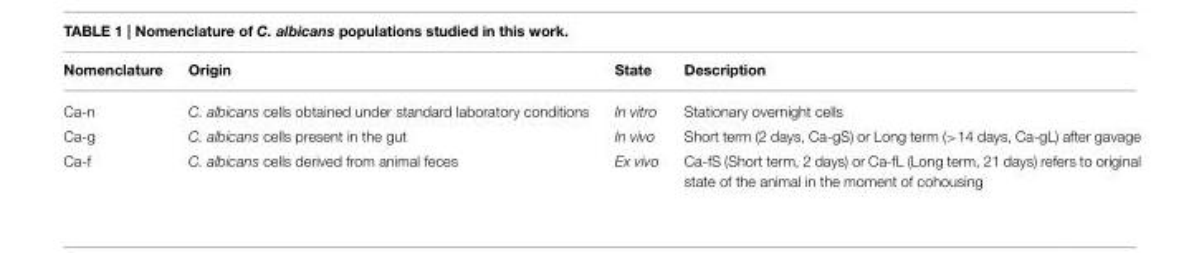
<table><thead><tr><td>Nomenclature</td><td>Origin</td><td>State</td><td>Description</td></tr></thead><tbody><tr><td>Ca-n</td><td>C. albicans cells obtained under standard laboratory conditions</td><td>In vitro</td><td>Stationary overnight cells</td></tr><tr><td>Ca-g</td><td>C. albicans cells present in the gut</td><td>In vivo</td><td>Short term (2 days, Ca-gS) or Long term (&gt;14 days, Ca-gL) after gavage</td></tr><tr><td>Ca-f</td><td>C. albicans cells derived from animal feces</td><td>Ex vivo</td><td>Ca-fS (Short term, 2 days) or Ca-fL (Long term, 21 days) refers to original state of the animal in the moment of cohousing</td></tr></tbody></table>